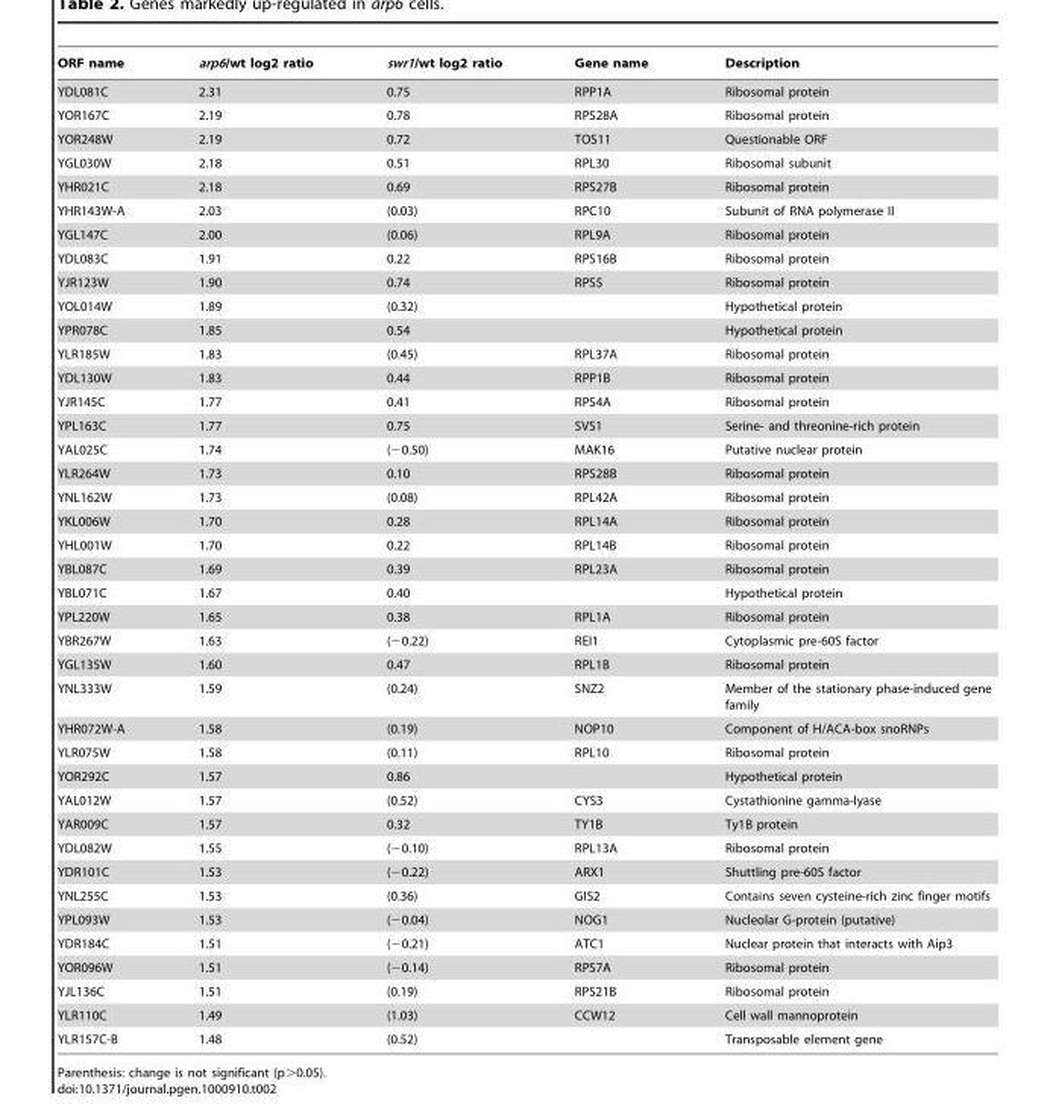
<table><thead><tr><td>ORF name</td><td>arp6/wt log2 ratio</td><td>swr1/wt log2 ratio</td><td>Gene name</td><td>Description</td></tr></thead><tbody><tr><td>YDL081C</td><td>2.31</td><td>0.75</td><td>RPP1A</td><td>Ribosomal protein</td></tr><tr><td>YOR167C</td><td>2.19</td><td>0.78</td><td>RPS28A</td><td>Ribosomal protein</td></tr><tr><td>YOR248W</td><td>2.19</td><td>0.72</td><td>TOS11</td><td>Questionable ORF</td></tr><tr><td>YGL030W</td><td>2.18</td><td>0.51</td><td>RPL30</td><td>Ribosomal subunit</td></tr><tr><td>YHR021C</td><td>2.18</td><td>0.69</td><td>RPS27B</td><td>Ribosomal protein</td></tr><tr><td>YHR143W-A</td><td>2.03</td><td>(0.03)</td><td>RPC10</td><td>Subunit of RNA polymerase II</td></tr><tr><td>YGL147C</td><td>2.00</td><td>(0.06)</td><td>RPL9A</td><td>Ribosomal protein</td></tr><tr><td>YDL083C</td><td>1.91</td><td>0.22</td><td>RPS16B</td><td>Ribosomal protein</td></tr><tr><td>YJR123W</td><td>1.90</td><td>0.74</td><td>RPS5</td><td>Ribosomal protein</td></tr><tr><td>YOL014W</td><td>1.89</td><td>(0.32)</td><td></td><td>Hypothetical protein</td></tr><tr><td>YPR078C</td><td>1.85</td><td>0.54</td><td></td><td>Hypothetical protein</td></tr><tr><td>YLR185W</td><td>1.83</td><td>(0.45)</td><td>RPL37A</td><td>Ribosomal protein</td></tr><tr><td>YDL130W</td><td>1.83</td><td>0.44</td><td>RPP1B</td><td>Ribosomal protein</td></tr><tr><td>YJR145C</td><td>1.77</td><td>0.41</td><td>RPS4A</td><td>Ribosomal protein</td></tr><tr><td>YPL163C</td><td>1.77</td><td>0.75</td><td>SVS1</td><td>Serine- and threonine-rich protein</td></tr><tr><td>YAL025C</td><td>1.74</td><td>(−0.50)</td><td>MAK16</td><td>Putative nuclear protein</td></tr><tr><td>YLR264W</td><td>1.73</td><td>0.10</td><td>RPS28B</td><td>Ribosomal protein</td></tr><tr><td>YNL162W</td><td>1.73</td><td>(0.08)</td><td>RPL42A</td><td>Ribosomal protein</td></tr><tr><td>YKL006W</td><td>1.70</td><td>0.28</td><td>RPL14A</td><td>Ribosomal protein</td></tr><tr><td>YHL001W</td><td>1.70</td><td>0.22</td><td>RPL14B</td><td>Ribosomal protein</td></tr><tr><td>YBL087C</td><td>1.69</td><td>0.39</td><td>RPL23A</td><td>Ribosomal protein</td></tr><tr><td>YBL071C</td><td>1.67</td><td>0.40</td><td></td><td>Hypothetical protein</td></tr><tr><td>YPL220W</td><td>1.65</td><td>0.38</td><td>RPL1A</td><td>Ribosomal protein</td></tr><tr><td>YBR267W</td><td>1.63</td><td>(−0.22)</td><td>REI1</td><td>Cytoplasmic pre-60S factor</td></tr><tr><td>YGL135W</td><td>1.60</td><td>0.47</td><td>RPL1B</td><td>Ribosomal protein</td></tr><tr><td>YNL333W</td><td>1.59</td><td>(0.24)</td><td>SNZ2</td><td>Member of the stationary phase-induced gene family</td></tr><tr><td>YHR072W-A</td><td>1.58</td><td>(0.19)</td><td>NOP10</td><td>Component of H/ACA-box snoRNPs</td></tr><tr><td>YLR075W</td><td>1.58</td><td>(0.11)</td><td>RPL10</td><td>Ribosomal protein</td></tr><tr><td>YOR292C</td><td>1.57</td><td>0.86</td><td></td><td>Hypothetical protein</td></tr><tr><td>YAL012W</td><td>1.57</td><td>(0.52)</td><td>CYS3</td><td>Cystathionine gamma-lyase</td></tr><tr><td>YAR009C</td><td>1.57</td><td>0.32</td><td>TY1B</td><td>Ty1B protein</td></tr><tr><td>YDL082W</td><td>1.55</td><td>(−0.10)</td><td>RPL13A</td><td>Ribosomal protein</td></tr><tr><td>YDR101C</td><td>1.53</td><td>(−0.22)</td><td>ARX1</td><td>Shuttling pre-60S factor</td></tr><tr><td>YNL255C</td><td>1.53</td><td>(0.36)</td><td>GIS2</td><td>Contains seven cysteine-rich zinc finger motifs</td></tr><tr><td>YPL093W</td><td>1.53</td><td>(−0.04)</td><td>NOG1</td><td>Nucleolar G-protein (putative)</td></tr><tr><td>YDR184C</td><td>1.51</td><td>(−0.21)</td><td>ATC1</td><td>Nuclear protein that interacts with Aip3</td></tr><tr><td>YOR096W</td><td>1.51</td><td>(−0.14)</td><td>RPS7A</td><td>Ribosomal protein</td></tr><tr><td>YJL136C</td><td>1.51</td><td>(0.19)</td><td>RPS21B</td><td>Ribosomal protein</td></tr><tr><td>YLR110C</td><td>1.49</td><td>(1.03)</td><td>CCW12</td><td>Cell wall mannoprotein</td></tr><tr><td>YLR157C-B</td><td>1.48</td><td>(0.52)</td><td></td><td>Transposable element gene</td></tr></tbody></table>